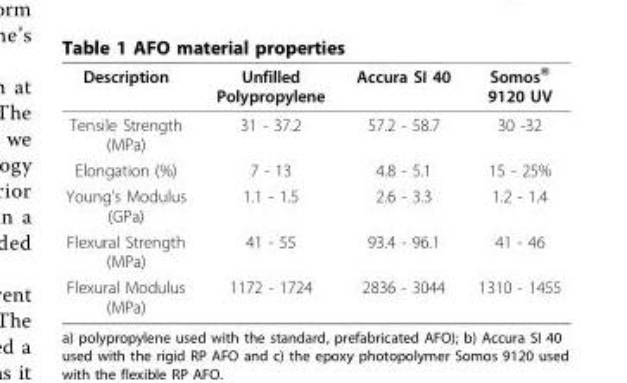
<table><thead><tr><td>Description</td><td>Unfilled Polypropylene</td><td>Accura SI 40</td><td>Somos<sup>®</sup> 9120 UV</td></tr></thead><tbody><tr><td>Tensile Strength (MPa)</td><td>31 - 37.2</td><td>57.2 - 58.7</td><td>30 -32</td></tr><tr><td>Elongation (%)</td><td>7 - 13</td><td>4.8 - 5.1</td><td>15 - 25%</td></tr><tr><td>Young’s Modulus (GPa)</td><td>1.1 - 1.5</td><td>2.6 - 3.3</td><td>1.2 - 1.4</td></tr><tr><td>Flexural Strength (MPa)</td><td>41 - 55</td><td>93.4 - 96.1</td><td>41 - 46</td></tr><tr><td>Flexural Modulus (MPa)</td><td>1172 - 1724</td><td>2836 - 3044</td><td>1310 - 1455</td></tr></tbody></table>